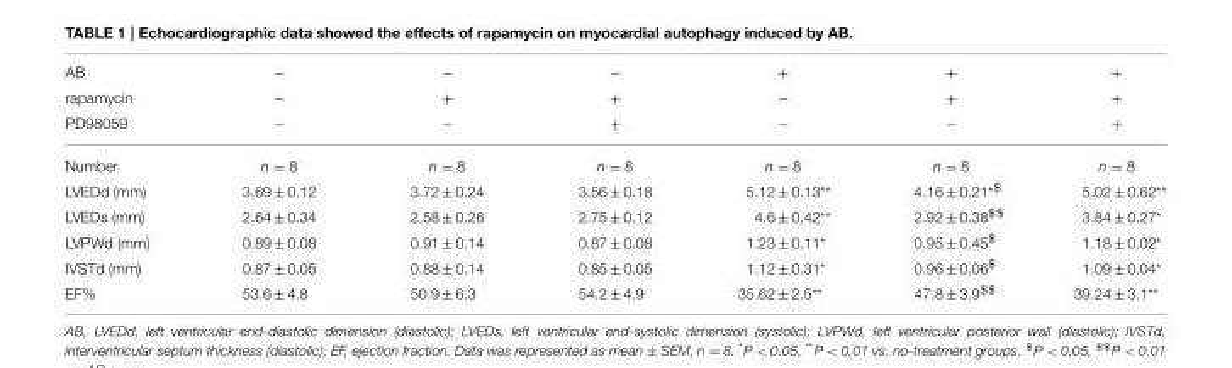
<table><tbody><tr><td>AB</td><td>−</td><td>−</td><td>−</td><td>+</td><td>+</td><td>+</td></tr><tr><td>rapamycin</td><td>−</td><td>+</td><td>+</td><td>−</td><td>+</td><td>+</td></tr><tr><td>PD98059</td><td>−</td><td>−</td><td>+</td><td>−</td><td>−</td><td>+</td></tr><tr><td>Number</td><td>n = 8</td><td>n = 8</td><td>n = 8</td><td>n = 8</td><td>n = 8</td><td>n = 8</td></tr><tr><td>LVEDd (mm)</td><td>3.69 ± 0.12</td><td>3.72 ± 0.24</td><td>3.56 ± 0.18</td><td>5.12 ± 0.13**</td><td>4.16 ± 0.21<sup>*$</sup></td><td>5.02 ± 0.62**</td></tr><tr><td>LVEDs (mm)</td><td>2.64 ± 0.34</td><td>2.58 ± 0.26</td><td>2.75 ± 0.12</td><td>4.6 ± 0.42**</td><td>2.92 ± 0.38<sup>$$</sup></td><td>3.84 ± 0.27*</td></tr><tr><td>LVPWd (mm)</td><td>0.89 ± 0.08</td><td>0.91 ± 0.14</td><td>0.87 ± 0.08</td><td>1.23 ± 0.11*</td><td>0.95 ± 0.45<sup>$</sup></td><td>1.18 ± 0.02*</td></tr><tr><td>IVSTd (mm)</td><td>0.87 ± 0.05</td><td>0.88 ± 0.14</td><td>0.85 ± 0.05</td><td>1.12 ± 0.31*</td><td>0.96 ± 0.06<sup>$</sup></td><td>1.09 ± 0.04*</td></tr><tr><td>EF%</td><td>53.6 ± 4.8</td><td>50.9 ± 6.3</td><td>54.2 ± 4.9</td><td>35.62 ± 2.5**</td><td>47.8 ± 3.9<sup>$$</sup></td><td>39.24 ± 3.1**</td></tr></tbody></table>